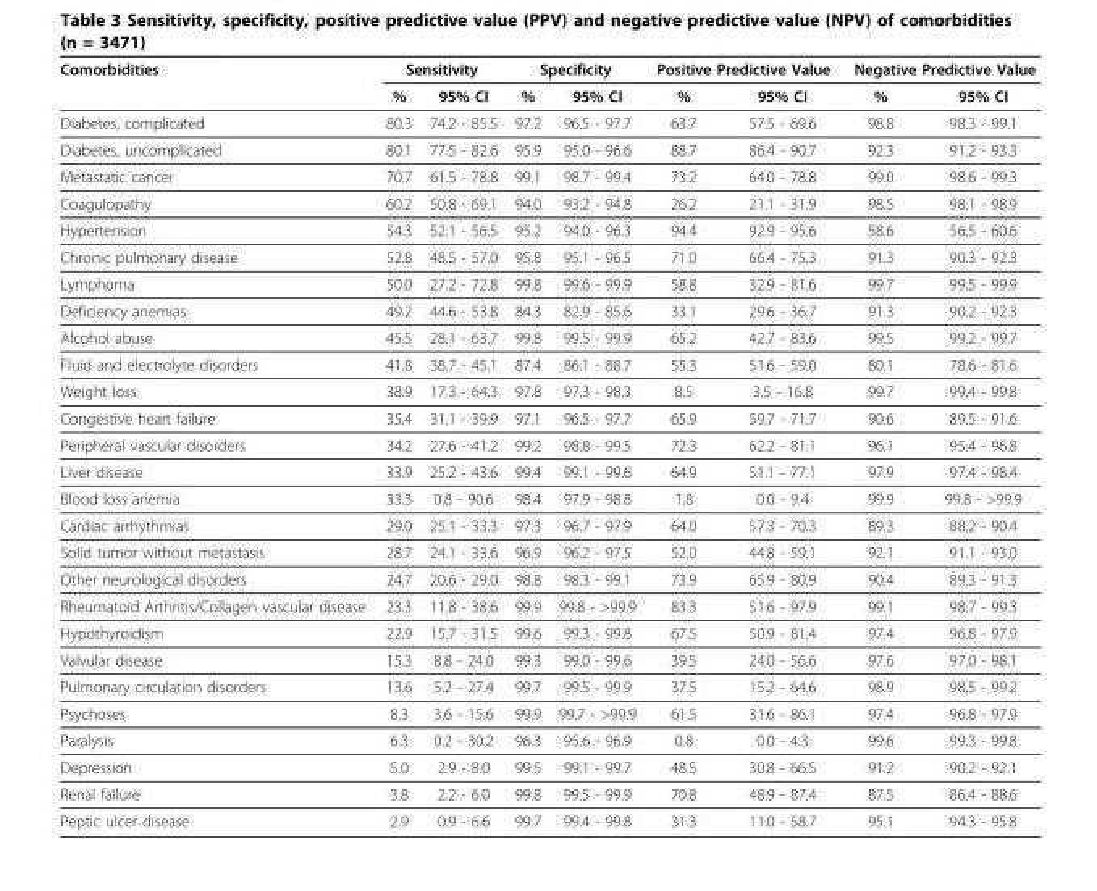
<table><thead><tr><td rowspan="2">Comorbidities</td><td colspan="2">Sensitivity</td><td colspan="2">Specificity</td><td colspan="2">Positive Predictive Value</td><td colspan="2">Negative Predictive Value</td></tr><tr><td>%</td><td>95% CI</td><td>%</td><td>95% CI</td><td>%</td><td>95% CI</td><td>%</td><td>95% CI</td></tr></thead><tbody><tr><td>Diabetes, complicated</td><td>80.3</td><td>74.2 - 85.5</td><td>97.2</td><td>96.5 - 97.7</td><td>63.7</td><td>57.5 - 69.6</td><td>98.8</td><td>98.3 - 99.1</td></tr><tr><td>Diabetes, uncomplicated</td><td>80.1</td><td>77.5 - 82.6</td><td>95.9</td><td>95.0 - 96.6</td><td>88.7</td><td>86.4 - 90.7</td><td>92.3</td><td>91.2 - 93.3</td></tr><tr><td>Metastatic cancer</td><td>70.7</td><td>61.5 - 78.8</td><td>99.1</td><td>98.7 - 99.4</td><td>73.2</td><td>64.0 - 78.8</td><td>99.0</td><td>98.6 - 99.3</td></tr><tr><td>Coagulopathy</td><td>60.2</td><td>50.8 - 69.1</td><td>94.0</td><td>93.2 - 94.8</td><td>26.2</td><td>21.1 - 31.9</td><td>98.5</td><td>98.1 - 98.9</td></tr><tr><td>Hypertension</td><td>54.3</td><td>52.1 - 56.5</td><td>95.2</td><td>94.0 - 96.3</td><td>94.4</td><td>92.9 - 95.6</td><td>58.6</td><td>56.5 - 60.6</td></tr><tr><td>Chronic pulmonary disease</td><td>52.8</td><td>48.5 - 57.0</td><td>95.8</td><td>95.1 - 96.5</td><td>71.0</td><td>66.4 - 75.3</td><td>91.3</td><td>90.3 - 92.3</td></tr><tr><td>Lymphoma</td><td>50.0</td><td>27.2 - 72.8</td><td>99.8</td><td>99.6 - 99.9</td><td>58.8</td><td>32.9 - 81.6</td><td>99.7</td><td>99.5 - 99.9</td></tr><tr><td>Deficiency anemias</td><td>49.2</td><td>44.6 - 53.8</td><td>84.3</td><td>82.9 - 85.6</td><td>33.1</td><td>29.6 - 36.7</td><td>91.3</td><td>90.2 - 92.3</td></tr><tr><td>Alcohol abuse</td><td>45.5</td><td>28.1 - 63.7</td><td>99.8</td><td>99.5 - 99.9</td><td>65.2</td><td>42.7 - 83.6</td><td>99.5</td><td>99.2 - 99.7</td></tr><tr><td>Fluid and electrolyte disorders</td><td>41.8</td><td>38.7 - 45.1</td><td>87.4</td><td>86.1 - 88.7</td><td>55.3</td><td>51.6 - 59.0</td><td>80.1</td><td>78.6 - 81.6</td></tr><tr><td>Weight loss</td><td>38.9</td><td>17.3 - 64.3</td><td>97.8</td><td>97.3 - 98.3</td><td>8.5</td><td>3.5 - 16.8</td><td>99.7</td><td>99.4 - 99.8</td></tr><tr><td>Congestive heart failure</td><td>35.4</td><td>31.1 - 39.9</td><td>97.1</td><td>96.5 - 97.7</td><td>65.9</td><td>59.7 - 71.7</td><td>90.6</td><td>89.5 - 91.6</td></tr><tr><td>Peripheral vascular disorders</td><td>34.2</td><td>27.6 - 41.2</td><td>99.2</td><td>98.8 - 99.5</td><td>72.3</td><td>62.2 - 81.1</td><td>96.1</td><td>95.4 - 96.8</td></tr><tr><td>Liver disease</td><td>33.9</td><td>25.2 - 43.6</td><td>99.4</td><td>99.1 - 99.6</td><td>64.9</td><td>51.1 - 77.1</td><td>97.9</td><td>97.4 - 98.4</td></tr><tr><td>Blood loss anemia</td><td>33.3</td><td>0.8 - 90.6</td><td>98.4</td><td>97.9 - 98.8</td><td>1.8</td><td>0.0 - 9.4</td><td>99.9</td><td>99.8 - &gt;99.9</td></tr><tr><td>Cardiac arrhythmias</td><td>29.0</td><td>25.1 - 33.3</td><td>97.3</td><td>96.7 - 97.9</td><td>64.0</td><td>57.3 - 70.3</td><td>89.3</td><td>88.2 - 90.4</td></tr><tr><td>Solid tumor without metastasis</td><td>28.7</td><td>24.1 - 33.6</td><td>96.9</td><td>96.2 - 97.5</td><td>52.0</td><td>44.8 - 59.1</td><td>92.1</td><td>91.1 - 93.0</td></tr><tr><td>Other neurological disorders</td><td>24.7</td><td>20.6 - 29.0</td><td>98.8</td><td>98.3 - 99.1</td><td>73.9</td><td>65.9 - 80.9</td><td>90.4</td><td>89.3 - 91.3</td></tr><tr><td>Rheumatoid Arthritis/Collagen vascular disease</td><td>23.3</td><td>11.8 - 38.6</td><td>99.9</td><td>99.8 - &gt;99.9</td><td>83.3</td><td>51.6 - 97.9</td><td>99.1</td><td>98.7 - 99.3</td></tr><tr><td>Hypothyroidism</td><td>22.9</td><td>15.7 - 31.5</td><td>99.6</td><td>99.3 - 99.8</td><td>67.5</td><td>50.9 - 81.4</td><td>97.4</td><td>96.8 - 97.9</td></tr><tr><td>Valvular disease</td><td>15.3</td><td>8.8 - 24.0</td><td>99.3</td><td>99.0 - 99.6</td><td>39.5</td><td>24.0 - 56.6</td><td>97.6</td><td>97.0 - 98.1</td></tr><tr><td>Pulmonary circulation disorders</td><td>13.6</td><td>5.2 - 27.4</td><td>99.7</td><td>99.5 - 99.9</td><td>37.5</td><td>15.2 - 64.6</td><td>98.9</td><td>98.5 - 99.2</td></tr><tr><td>Psychoses</td><td>8.3</td><td>3.6 - 15.6</td><td>99.9</td><td>99.7 - &gt;99.9</td><td>61.5</td><td>31.6 - 86.1</td><td>97.4</td><td>96.8 - 97.9</td></tr><tr><td>Paralysis</td><td>6.3</td><td>0.2 - 30.2</td><td>96.3</td><td>95.6 - 96.9</td><td>0.8</td><td>0.0 - 4.3</td><td>99.6</td><td>99.3 - 99.8</td></tr><tr><td>Depression</td><td>5.0</td><td>2.9 - 8.0</td><td>99.5</td><td>99.1 - 99.7</td><td>48.5</td><td>30.8 - 66.5</td><td>91.2</td><td>90.2 - 92.1</td></tr><tr><td>Renal failure</td><td>3.8</td><td>2.2 - 6.0</td><td>99.8</td><td>99.5 - 99.9</td><td>70.8</td><td>48.9 - 87.4</td><td>87.5</td><td>86.4 - 88.6</td></tr><tr><td>Peptic ulcer disease</td><td>2.9</td><td>0.9 - 6.6</td><td>99.7</td><td>99.4 - 99.8</td><td>31.3</td><td>11.0 - 58.7</td><td>95.1</td><td>94.3 - 95.8</td></tr></tbody></table>